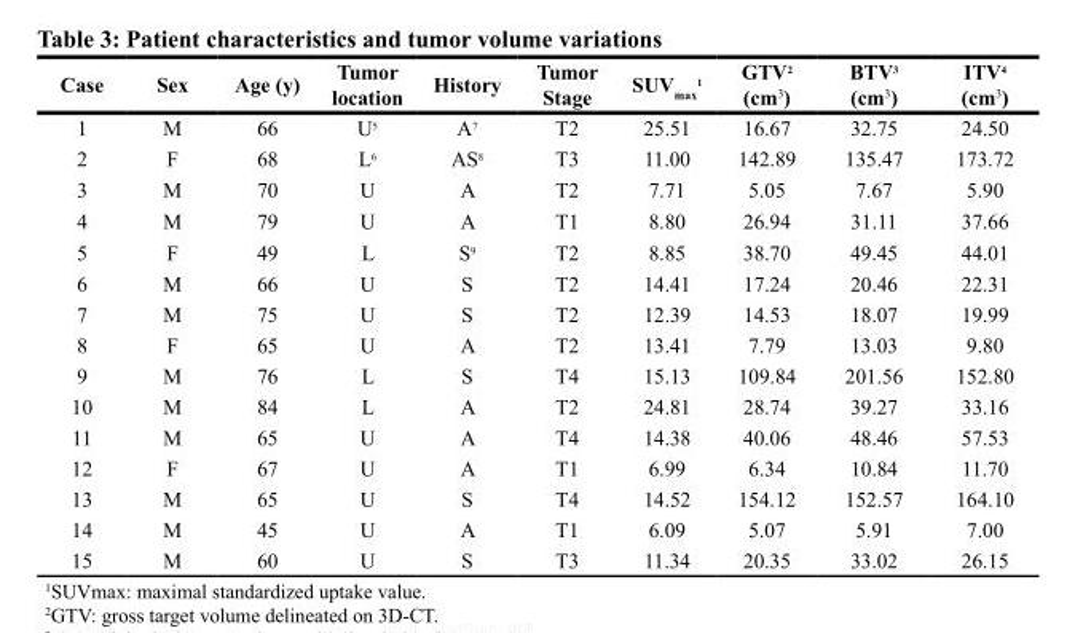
<table><thead><tr><td>Case</td><td>Sex</td><td>Age (y)</td><td>Tumor location</td><td>History</td><td>Tumor Stage</td><td>SUV<sub>max</sub> <sup>1</sup></td><td>GTV<sup>2</sup> (cm<sup>3</sup>)</td><td>BTV<sup>3</sup> (cm<sup>3</sup>)</td><td>ITV<sup>4</sup> (cm<sup>3</sup>)</td></tr></thead><tbody><tr><td>1</td><td>M</td><td>66</td><td>U<sup>5</sup></td><td>A<sup>7</sup></td><td>T2</td><td>25.51</td><td>16.67</td><td>32.75</td><td>24.50</td></tr><tr><td>2</td><td>F</td><td>68</td><td>L<sup>6</sup></td><td>AS<sup>8</sup></td><td>T3</td><td>11.00</td><td>142.89</td><td>135.47</td><td>173.72</td></tr><tr><td>3</td><td>M</td><td>70</td><td>U</td><td>A</td><td>T2</td><td>7.71</td><td>5.05</td><td>7.67</td><td>5.90</td></tr><tr><td>4</td><td>M</td><td>79</td><td>U</td><td>A</td><td>T1</td><td>8.80</td><td>26.94</td><td>31.11</td><td>37.66</td></tr><tr><td>5</td><td>F</td><td>49</td><td>L</td><td>S<sup>9</sup></td><td>T2</td><td>8.85</td><td>38.70</td><td>49.45</td><td>44.01</td></tr><tr><td>6</td><td>M</td><td>66</td><td>U</td><td>S</td><td>T2</td><td>14.41</td><td>17.24</td><td>20.46</td><td>22.31</td></tr><tr><td>7</td><td>M</td><td>75</td><td>U</td><td>S</td><td>T2</td><td>12.39</td><td>14.53</td><td>18.07</td><td>19.99</td></tr><tr><td>8</td><td>F</td><td>65</td><td>U</td><td>A</td><td>T2</td><td>13.41</td><td>7.79</td><td>13.03</td><td>9.80</td></tr><tr><td>9</td><td>M</td><td>76</td><td>L</td><td>S</td><td>T4</td><td>15.13</td><td>109.84</td><td>201.56</td><td>152.80</td></tr><tr><td>10</td><td>M</td><td>84</td><td>L</td><td>A</td><td>T2</td><td>24.81</td><td>28.74</td><td>39.27</td><td>33.16</td></tr><tr><td>11</td><td>M</td><td>65</td><td>U</td><td>A</td><td>T4</td><td>14.38</td><td>40.06</td><td>48.46</td><td>57.53</td></tr><tr><td>12</td><td>F</td><td>67</td><td>U</td><td>A</td><td>T1</td><td>6.99</td><td>6.34</td><td>10.84</td><td>11.70</td></tr><tr><td>13</td><td>M</td><td>65</td><td>U</td><td>S</td><td>T4</td><td>14.52</td><td>154.12</td><td>152.57</td><td>164.10</td></tr><tr><td>14</td><td>M</td><td>45</td><td>U</td><td>A</td><td>T1</td><td>6.09</td><td>5.07</td><td>5.91</td><td>7.00</td></tr><tr><td>15</td><td>M</td><td>60</td><td>U</td><td>S</td><td>T3</td><td>11.34</td><td>20.35</td><td>33.02</td><td>26.15</td></tr></tbody></table>